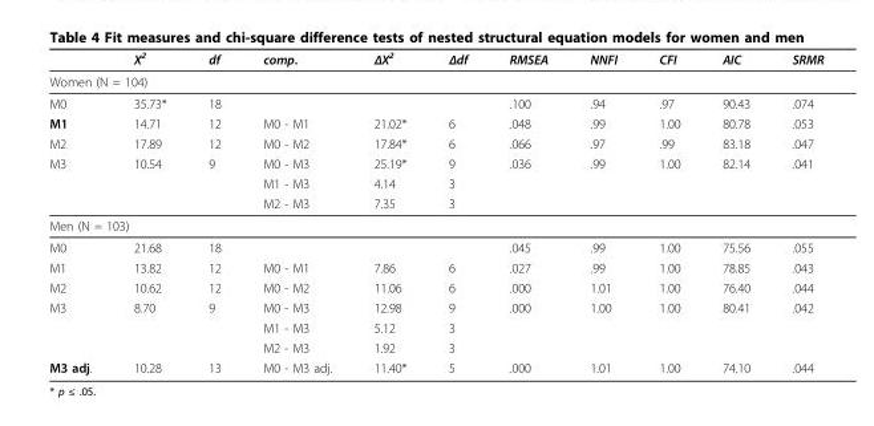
<table><thead><tr><td></td><td>Χ<sup>2</sup></td><td>df</td><td>comp.</td><td>ΔΧ<sup>2</sup></td><td>Δdf</td><td>RMSEA</td><td>NNFI</td><td>CFI</td><td>AIC</td><td>SRMR</td></tr></thead><tbody><tr><td colspan="11">Women (N = 104)</td></tr><tr><td>M0</td><td>35.73*</td><td>18</td><td></td><td></td><td></td><td>.100</td><td>.94</td><td>.97</td><td>90.43</td><td>.074</td></tr><tr><td>M1</td><td>14.71</td><td>12</td><td>M0 - M1</td><td>21.02*</td><td>6</td><td>.048</td><td>.99</td><td>1.00</td><td>80.78</td><td>.053</td></tr><tr><td>M2</td><td>17.89</td><td>12</td><td>M0 - M2</td><td>17.84*</td><td>6</td><td>.066</td><td>.97</td><td>.99</td><td>83.18</td><td>.047</td></tr><tr><td rowspan="3">M3</td><td>10.54</td><td>9</td><td>M0 - M3</td><td>25.19*</td><td>9</td><td>.036</td><td>.99</td><td>1.00</td><td>82.14</td><td>.041</td></tr><tr><td></td><td></td><td>M1 - M3</td><td>4.14</td><td>3</td><td></td><td></td><td></td><td></td><td></td></tr><tr><td></td><td></td><td>M2 - M3</td><td>7.35</td><td>3</td><td></td><td></td><td></td><td></td><td></td></tr><tr><td colspan="11">Men (N = 103)</td></tr><tr><td>M0</td><td>21.68</td><td>18</td><td></td><td></td><td></td><td>.045</td><td>.99</td><td>1.00</td><td>75.56</td><td>.055</td></tr><tr><td>M1</td><td>13.82</td><td>12</td><td>M0 - M1</td><td>7.86</td><td>6</td><td>.027</td><td>.99</td><td>1.00</td><td>78.85</td><td>.043</td></tr><tr><td>M2</td><td>10.62</td><td>12</td><td>M0 - M2</td><td>11.06</td><td>6</td><td>.000</td><td>1.01</td><td>1.00</td><td>76.40</td><td>.044</td></tr><tr><td rowspan="3">M3</td><td>8.70</td><td>9</td><td>M0 - M3</td><td>12.98</td><td>9</td><td>.000</td><td>1.00</td><td>1.00</td><td>80.41</td><td>.042</td></tr><tr><td></td><td></td><td>M1 - M3</td><td>5.12</td><td>3</td><td></td><td></td><td></td><td></td><td></td></tr><tr><td></td><td></td><td>M2 - M3</td><td>1.92</td><td>3</td><td></td><td></td><td></td><td></td><td></td></tr><tr><td>M3 adj.</td><td>10.28</td><td>13</td><td>M0 - M3 adj.</td><td>11.40*</td><td>5</td><td>.000</td><td>1.01</td><td>1.00</td><td>74.10</td><td>.044</td></tr></tbody></table>